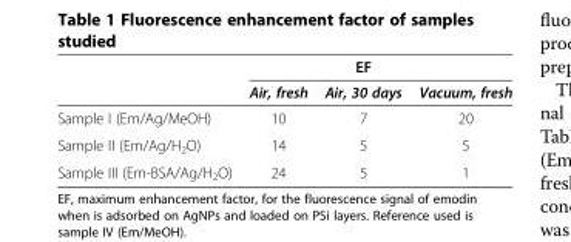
<table><thead><tr><td rowspan="2"></td><td rowspan="2">Air, fresh</td><td rowspan="2">EF Air, 30 days</td><td rowspan="2">Vacuum, fresh</td></tr><tr></tr></thead><tbody><tr><td>Sample I (Em/Ag/MeOH)</td><td>10</td><td>7</td><td>20</td></tr><tr><td>Sample II (Em/Ag/H<sub>2</sub>O)</td><td>14</td><td>5</td><td>5</td></tr><tr><td>Sample III (Em-BSA/Ag/H<sub>2</sub>O)</td><td>24</td><td>5</td><td>1</td></tr></tbody></table>